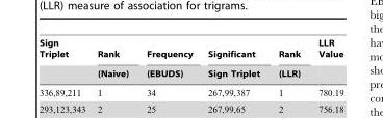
<table><thead><tr><td rowspan="2">Sign Triplet</td><td rowspan="2">Rank (Naive)</td><td rowspan="2">Frequency (EBUDS)</td><td rowspan="2">Significant Sign Triplet</td><td rowspan="2">Rank (LLR)</td><td rowspan="2">LLR Value</td></tr><tr></tr></thead><tbody></tbody></table>